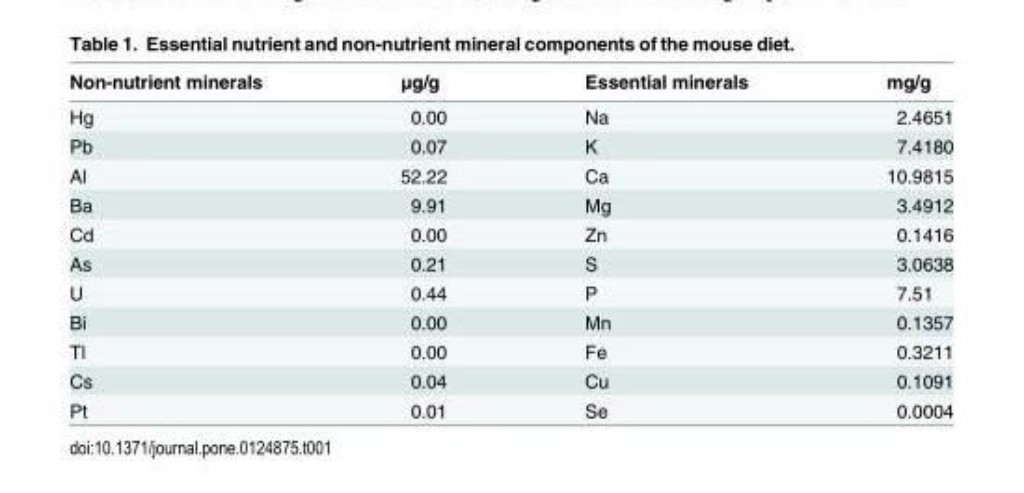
<table><thead><tr><td>Non-nutrient minerals</td><td>μg/g</td><td>Essential minerals</td><td>mg/g</td></tr></thead><tbody><tr><td>Hg</td><td>0.00</td><td>Na</td><td>2.4651</td></tr><tr><td>Pb</td><td>0.07</td><td>K</td><td>7.4180</td></tr><tr><td>Al</td><td>52.22</td><td>Ca</td><td>10.9815</td></tr><tr><td>Ba</td><td>9.91</td><td>Mg</td><td>3.4912</td></tr><tr><td>Cd</td><td>0.00</td><td>Zn</td><td>0.1416</td></tr><tr><td>As</td><td>0.21</td><td>S</td><td>3.0638</td></tr><tr><td>U</td><td>0.44</td><td>P</td><td>7.51</td></tr><tr><td>Bi</td><td>0.00</td><td>Mn</td><td>0.1357</td></tr><tr><td>Tl</td><td>0.00</td><td>Fe</td><td>0.3211</td></tr><tr><td>Cs</td><td>0.04</td><td>Cu</td><td>0.1091</td></tr><tr><td>Pt</td><td>0.01</td><td>Se</td><td>0.0004</td></tr></tbody></table>